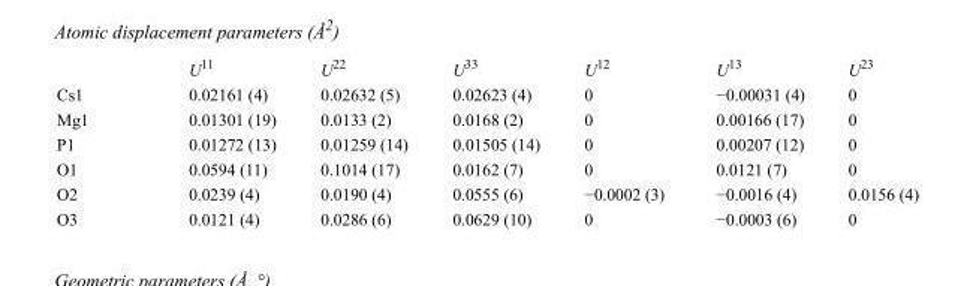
<table><thead><tr><td></td><td>U<sup>11</sup></td><td>U<sup>22</sup></td><td>U<sup>33</sup></td><td>U<sup>12</sup></td><td>U<sup>13</sup></td><td>U<sup>23</sup></td></tr></thead><tbody><tr><td>Cs1</td><td>0.02161 (4)</td><td>0.02632 (5)</td><td>0.02623 (4)</td><td>0</td><td>−0.00031 (4)</td><td>0</td></tr><tr><td>Mg1</td><td>0.01301 (19)</td><td>0.0133 (2)</td><td>0.0168 (2)</td><td>0</td><td>0.00166 (17)</td><td>0</td></tr><tr><td>P1</td><td>0.01272 (13)</td><td>0.01259 (14)</td><td>0.01505 (14)</td><td>0</td><td>0.00207 (12)</td><td>0</td></tr><tr><td>O1</td><td>0.0594 (11)</td><td>0.1014 (17)</td><td>0.0162 (7)</td><td>0</td><td>0.0121 (7)</td><td>0</td></tr><tr><td>O2</td><td>0.0239 (4)</td><td>0.0190 (4)</td><td>0.0555 (6)</td><td>−0.0002 (3)</td><td>−0.0016 (4)</td><td>0.0156 (4)</td></tr><tr><td>O3</td><td>0.0121 (4)</td><td>0.0286 (6)</td><td>0.0629 (10)</td><td>0</td><td>−0.0003 (6)</td><td>0</td></tr></tbody></table>